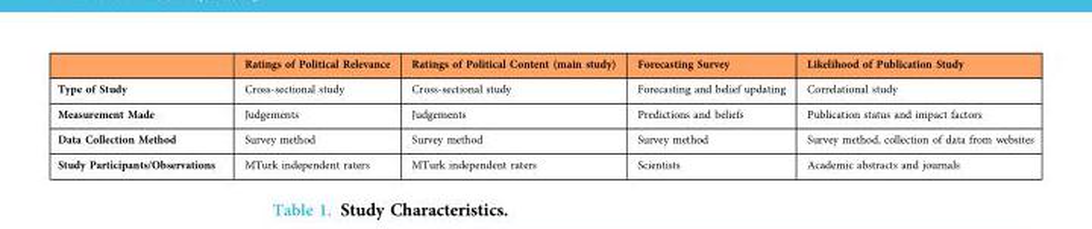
<table><thead><tr><td></td><td>Ratings of Political Relevance</td><td>Ratings of Political Content (main study)</td><td>Forecasting Survey</td><td>Likelihood of Publication Study</td></tr></thead><tbody><tr><td>Type of Study</td><td>Cross-sectional study</td><td>Cross-sectional study</td><td>Forecasting and belief updating</td><td>Correlational study</td></tr><tr><td>Measurement Made</td><td>Judgements</td><td>Judgements</td><td>Predictions and beliefs</td><td>Publication status and impact factors</td></tr><tr><td>Data Collection Method</td><td>Survey method</td><td>Survey method</td><td>Survey method</td><td>Survey method, collection of data from websites</td></tr><tr><td>Study Participants/Observations</td><td>MTurk independent raters</td><td>MTurk independent raters</td><td>Scientists</td><td>Academic abstracts and journals</td></tr></tbody></table>